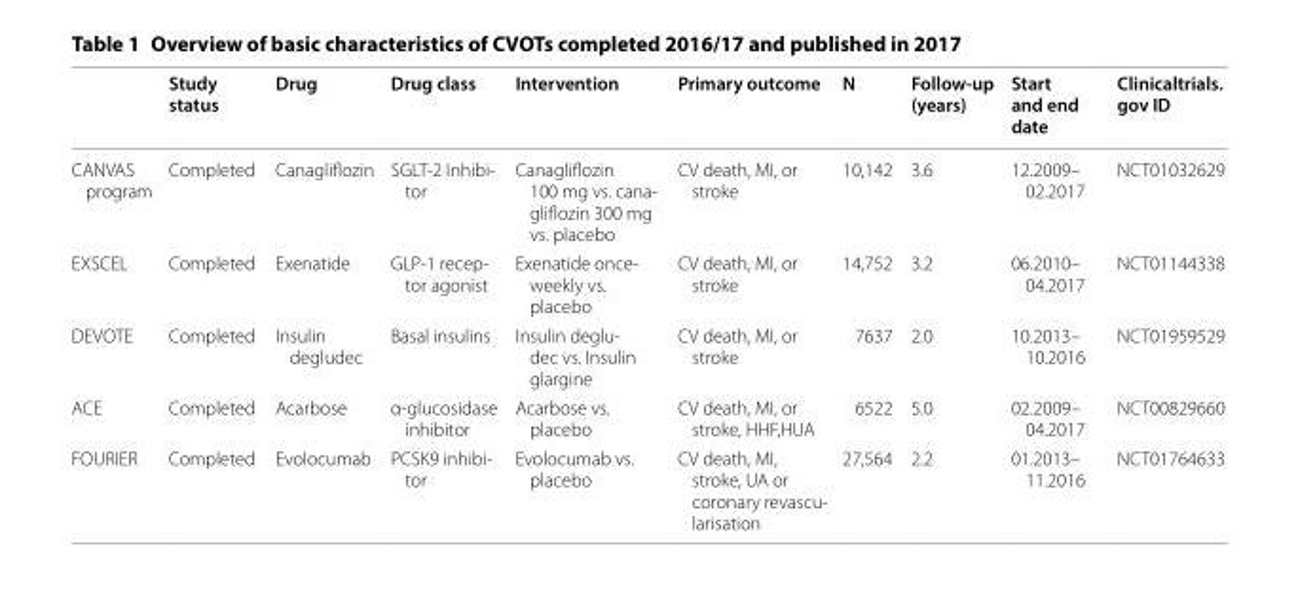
<table><thead><tr><td></td><td>Study status</td><td>Drug</td><td>Drug class</td><td>Intervention</td><td>Primary outcome</td><td>N</td><td>Follow‑up (years)</td><td>Start and end date</td><td>Clinicaltrials. gov ID</td></tr></thead><tbody><tr><td>CANVAS program</td><td>Completed</td><td>Canagliflozin</td><td>SGLT-2 Inhibi- tor</td><td>Canagliflozin 100 mg vs. cana- gliflozin 300 mg vs. placebo</td><td>CV death, MI, or stroke</td><td>10,142</td><td>3.6</td><td>12.2009– 02.2017</td><td>NCT01032629</td></tr><tr><td>EXSCEL</td><td>Completed</td><td>Exenatide</td><td>GLP-1 recep- tor agonist</td><td>Exenatide once- weekly vs. placebo</td><td>CV death, MI, or stroke</td><td>14,752</td><td>3.2</td><td>06.2010– 04.2017</td><td>NCT01144338</td></tr><tr><td>DEVOTE</td><td>Completed</td><td>Insulin degludec</td><td>Basal insulins</td><td>Insulin deglu- dec vs. Insulin glargine</td><td>CV death, MI, or stroke</td><td>7637</td><td>2.0</td><td>10.2013– 10.2016</td><td>NCT01959529</td></tr><tr><td>ACE</td><td>Completed</td><td>Acarbose</td><td>α-glucosidase inhibitor</td><td>Acarbose vs. placebo</td><td>CV death, MI, or stroke, HHF,HUA</td><td>6522</td><td>5.0</td><td>02.2009– 04.2017</td><td>NCT00829660</td></tr><tr><td>FOURIER</td><td>Completed</td><td>Evolocumab</td><td>PCSK9 inhibi- tor</td><td>Evolocumab vs. placebo</td><td>CV death, MI, stroke, UA or coronary revascu- larisation</td><td>27,564</td><td>2.2</td><td>01.2013– 11.2016</td><td>NCT01764633</td></tr></tbody></table>